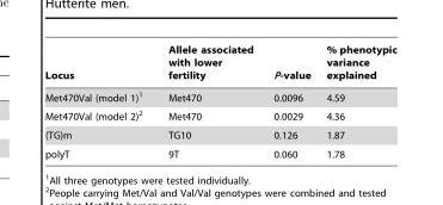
<table><thead><tr><td>Locus</td><td>Allele associated with lower fertility</td><td>P-value</td><td>% phenotypic variance explained</td></tr></thead><tbody><tr><td>Met470Val (model 1)<sup>1</sup></td><td>Met470</td><td>0.0096</td><td>4.59</td></tr><tr><td>Met470Val (model 2)<sup>2</sup></td><td>Met470</td><td>0.0029</td><td>4.36</td></tr><tr><td>(TG)m</td><td>TG10</td><td>0.126</td><td>1.87</td></tr><tr><td>polyT</td><td>9T</td><td>0.060</td><td>1.78</td></tr></tbody></table>